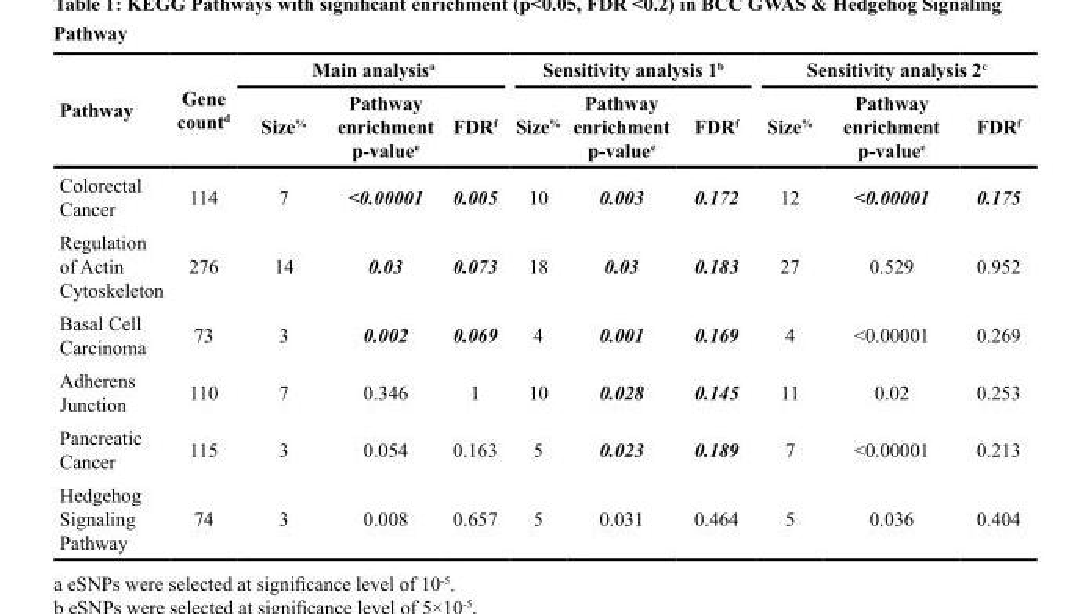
<table><thead><tr><td rowspan="2">Pathway</td><td rowspan="2">Gene count<sup>d</sup></td><td colspan="3">Main analysis<sup>a</sup></td><td colspan="3">Sensitivity analysis 1<sup>b</sup></td><td colspan="3">Sensitivity analysis 2<sup>c</sup></td></tr><tr><td>Size<sup>%</sup></td><td>Pathway enrichment p-value<sup>e</sup></td><td>FDR<sup>f</sup></td><td>Size<sup>%</sup></td><td>Pathway enrichment p-value<sup>e</sup></td><td>FDR<sup>f</sup></td><td>Size<sup>%</sup></td><td>Pathway enrichment p-value<sup>e</sup></td><td>FDR<sup>f</sup></td></tr></thead><tbody><tr><td>Colorectal Cancer</td><td>114</td><td>7</td><td>&lt;0.00001</td><td>0.005</td><td>10</td><td>0.003</td><td>0.172</td><td>12</td><td>&lt;0.00001</td><td>0.175</td></tr><tr><td>Regulation of Actin Cytoskeleton</td><td>276</td><td>14</td><td>0.03</td><td>0.073</td><td>18</td><td>0.03</td><td>0.183</td><td>27</td><td>0.529</td><td>0.952</td></tr><tr><td>Basal Cell Carcinoma</td><td>73</td><td>3</td><td>0.002</td><td>0.069</td><td>4</td><td>0.001</td><td>0.169</td><td>4</td><td>&lt;0.00001</td><td>0.269</td></tr><tr><td>Adherens Junction</td><td>110</td><td>7</td><td>0.346</td><td>1</td><td>10</td><td>0.028</td><td>0.145</td><td>11</td><td>0.02</td><td>0.253</td></tr><tr><td>Pancreatic Cancer</td><td>115</td><td>3</td><td>0.054</td><td>0.163</td><td>5</td><td>0.023</td><td>0.189</td><td>7</td><td>&lt;0.00001</td><td>0.213</td></tr><tr><td>Hedgehog Signaling Pathway</td><td>74</td><td>3</td><td>0.008</td><td>0.657</td><td>5</td><td>0.031</td><td>0.464</td><td>5</td><td>0.036</td><td>0.404</td></tr></tbody></table>